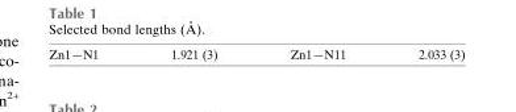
<table><tbody><tr><td>Zn1—N1</td><td>1.921 (3)</td><td>Zn1—N11</td><td>2.033 (3)</td></tr></tbody></table>